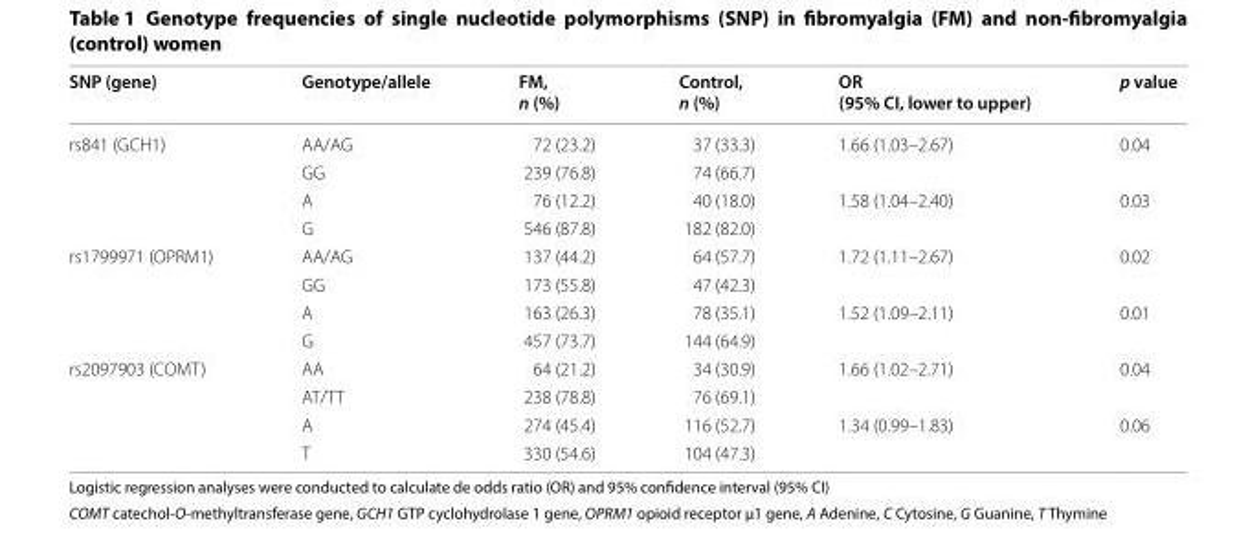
<table><thead><tr><td>SNP (gene)</td><td>Genotype/allele</td><td>FM, n (%)</td><td>Control, n (%)</td><td>OR (95% CI, lower to upper)</td><td>p value</td></tr></thead><tbody><tr><td rowspan="4">rs841 (GCH1)</td><td>AA/AG</td><td>72 (23.2)</td><td>37 (33.3)</td><td rowspan="2">1.66 (1.03–2.67)</td><td rowspan="2">0.04</td></tr><tr><td>GG</td><td>239 (76.8)</td><td>74 (66.7)</td></tr><tr><td>A</td><td>76 (12.2)</td><td>40 (18.0)</td><td rowspan="2">1.58 (1.04–2.40)</td><td rowspan="2">0.03</td></tr><tr><td>G</td><td>546 (87.8)</td><td>182 (82.0)</td></tr><tr><td rowspan="4">rs1799971 (OPRM1)</td><td>AA/AG</td><td>137 (44.2)</td><td>64 (57.7)</td><td rowspan="2">1.72 (1.11–2.67)</td><td rowspan="2">0.02</td></tr><tr><td>GG</td><td>173 (55.8)</td><td>47 (42.3)</td></tr><tr><td>A</td><td>163 (26.3)</td><td>78 (35.1)</td><td rowspan="2">1.52 (1.09–2.11)</td><td rowspan="2">0.01</td></tr><tr><td>G</td><td>457 (73.7)</td><td>144 (64.9)</td></tr><tr><td rowspan="4">rs2097903 (COMT)</td><td>AA</td><td>64 (21.2)</td><td>34 (30.9)</td><td rowspan="2">1.66 (1.02–2.71)</td><td rowspan="2">0.04</td></tr><tr><td>AT/TT</td><td>238 (78.8)</td><td>76 (69.1)</td></tr><tr><td>A</td><td>274 (45.4)</td><td>116 (52.7)</td><td rowspan="2">1.34 (0.99–1.83)</td><td rowspan="2">0.06</td></tr><tr><td>T</td><td>330 (54.6)</td><td>104 (47.3)</td></tr></tbody></table>